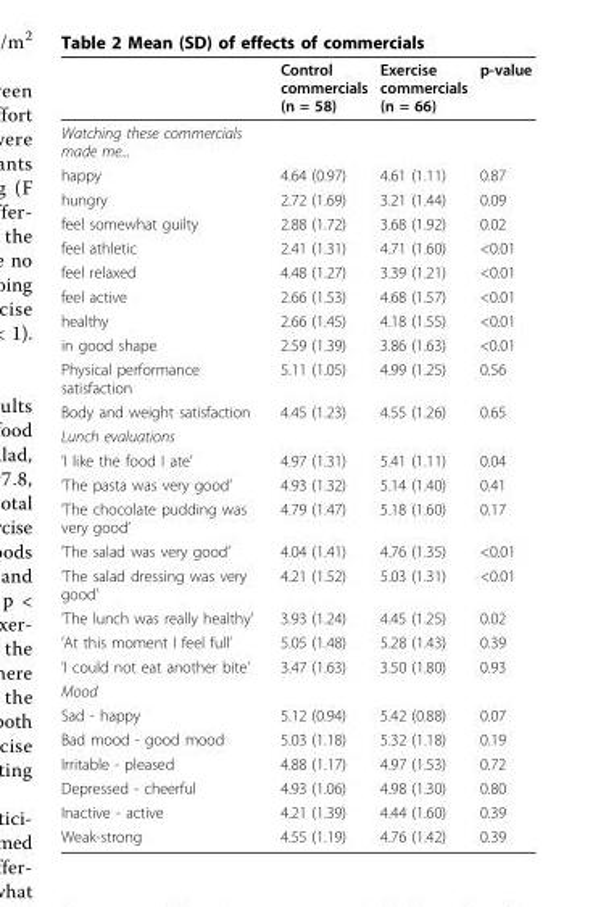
<table><thead><tr><td></td><td>Control commercials (n = 58)</td><td>Exercise commercials (n = 66)</td><td>p-value</td></tr></thead><tbody><tr><td colspan="4">Watching these commercials made me...</td></tr><tr><td>happy</td><td>4.64 (0.97)</td><td>4.61 (1.11)</td><td>0.87</td></tr><tr><td>hungry</td><td>2.72 (1.69)</td><td>3.21 (1.44)</td><td>0.09</td></tr><tr><td>feel somewhat guilty</td><td>2.88 (1.72)</td><td>3.68 (1.92)</td><td>0.02</td></tr><tr><td>feel athletic</td><td>2.41 (1.31)</td><td>4.71 (1.60)</td><td>&lt;0.01</td></tr><tr><td>feel relaxed</td><td>4.48 (1.27)</td><td>3.39 (1.21)</td><td>&lt;0.01</td></tr><tr><td>feel active</td><td>2.66 (1.53)</td><td>4.68 (1.57)</td><td>&lt;0.01</td></tr><tr><td>healthy</td><td>2.66 (1.45)</td><td>4.18 (1.55)</td><td>&lt;0.01</td></tr><tr><td>in good shape</td><td>2.59 (1.39)</td><td>3.86 (1.63)</td><td>&lt;0.01</td></tr><tr><td>Physical performance satisfaction</td><td>5.11 (1.05)</td><td>4.99 (1.25)</td><td>0.56</td></tr><tr><td>Body and weight satisfaction</td><td>4.45 (1.23)</td><td>4.55 (1.26)</td><td>0.65</td></tr><tr><td colspan="4">Lunch evaluations</td></tr><tr><td>’I like the food I ate’</td><td>4.97 (1.31)</td><td>5.41 (1.11)</td><td>0.04</td></tr><tr><td>’The pasta was very good’</td><td>4.93 (1.32)</td><td>5.14 (1.40)</td><td>0.41</td></tr><tr><td>’The chocolate pudding was very good’</td><td>4.79 (1.47)</td><td>5.18 (1.60)</td><td>0.17</td></tr><tr><td>’The salad was very good’</td><td>4.04 (1.41)</td><td>4.76 (1.35)</td><td>&lt;0.01</td></tr><tr><td>’The salad dressing was very good’</td><td>4.21 (1.52)</td><td>5.03 (1.31)</td><td>&lt;0.01</td></tr><tr><td>’The lunch was really healthy’</td><td>3.93 (1.24)</td><td>4.45 (1.25)</td><td>0.02</td></tr><tr><td>’At this moment I feel full’</td><td>5.05 (1.48)</td><td>5.28 (1.43)</td><td>0.39</td></tr><tr><td>’I could not eat another bite’</td><td>3.47 (1.63)</td><td>3.50 (1.80)</td><td>0.93</td></tr><tr><td colspan="4">Mood</td></tr><tr><td>Sad - happy</td><td>5.12 (0.94)</td><td>5.42 (0.88)</td><td>0.07</td></tr><tr><td>Bad mood - good mood</td><td>5.03 (1.18)</td><td>5.32 (1.18)</td><td>0.19</td></tr><tr><td>Irritable - pleased</td><td>4.88 (1.17)</td><td>4.97 (1.53)</td><td>0.72</td></tr><tr><td>Depressed - cheerful</td><td>4.93 (1.06)</td><td>4.98 (1.30)</td><td>0.80</td></tr><tr><td>Inactive - active</td><td>4.21 (1.39)</td><td>4.44 (1.60)</td><td>0.39</td></tr><tr><td>Weak-strong</td><td>4.55 (1.19)</td><td>4.76 (1.42)</td><td>0.39</td></tr></tbody></table>